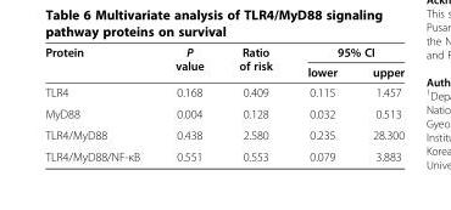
<table><thead><tr><td rowspan="2">Protein</td><td rowspan="2">P value</td><td rowspan="2">Ratio of risk</td><td colspan="2">95% CI</td></tr><tr><td>lower</td><td>upper</td></tr></thead><tbody><tr><td>TLR4</td><td>0.168</td><td>0.409</td><td>0.115</td><td>1.457</td></tr><tr><td>MyD88</td><td>0.004</td><td>0.128</td><td>0.032</td><td>0.513</td></tr><tr><td>TLR4/MyD88</td><td>0.438</td><td>2.580</td><td>0.235</td><td>28.300</td></tr><tr><td>TLR4/MyD88/NF-κB</td><td>0.551</td><td>0.553</td><td>0.079</td><td>3.883</td></tr></tbody></table>